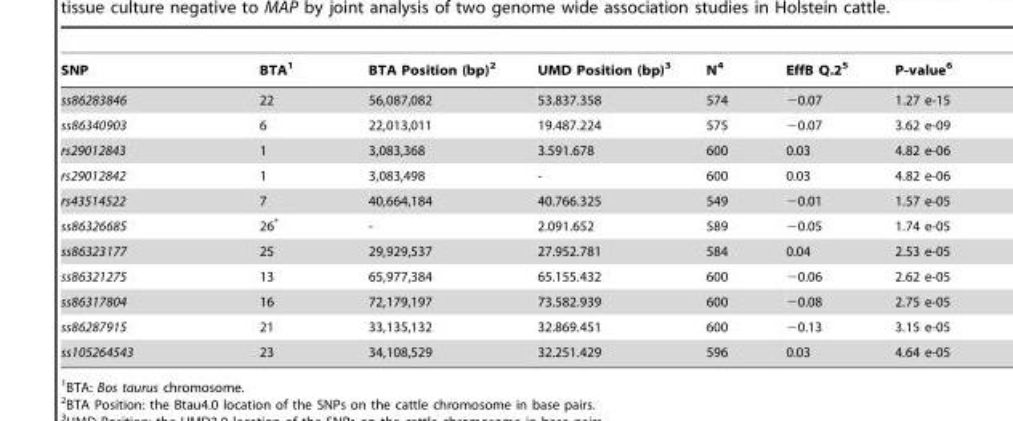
<table><thead><tr><td>SNP</td><td>BTA<sup>1</sup></td><td>BTA Position (bp)<sup>2</sup></td><td>UMD Position (bp)<sup>3</sup></td><td>N<sup>4</sup></td><td>EffB Q.2<sup>5</sup></td><td>P-value<sup>6</sup></td></tr></thead><tbody><tr><td>ss86283846</td><td>22</td><td>56,087,082</td><td>53.837.358</td><td>574</td><td>−0.07</td><td>1.27 e-15</td></tr><tr><td>ss86340903</td><td>6</td><td>22,013,011</td><td>19.487.224</td><td>575</td><td>−0.07</td><td>3.62 e-09</td></tr><tr><td>rs29012843</td><td>1</td><td>3,083,368</td><td>3.591.678</td><td>600</td><td>0.03</td><td>4.82 e-06</td></tr><tr><td>rs29012842</td><td>1</td><td>3,083,498</td><td>-</td><td>600</td><td>0.03</td><td>4.82 e-06</td></tr><tr><td>rs43514522</td><td>7</td><td>40,664,184</td><td>40.766.325</td><td>549</td><td>−0.01</td><td>1.57 e-05</td></tr><tr><td>ss86326685</td><td>26*</td><td>-</td><td>2.091.652</td><td>589</td><td>−0.05</td><td>1.74 e-05</td></tr><tr><td>ss86323177</td><td>25</td><td>29,929,537</td><td>27.952.781</td><td>584</td><td>0.04</td><td>2.53 e-05</td></tr><tr><td>ss86321275</td><td>13</td><td>65,977,384</td><td>65.155.432</td><td>600</td><td>−0.06</td><td>2.62 e-05</td></tr><tr><td>ss86317804</td><td>16</td><td>72,179,197</td><td>73.582.939</td><td>600</td><td>−0.08</td><td>2.75 e-05</td></tr><tr><td>ss86287915</td><td>21</td><td>33,135,132</td><td>32.869.451</td><td>600</td><td>−0.13</td><td>3.15 e-05</td></tr><tr><td>ss105264543</td><td>23</td><td>34,108,529</td><td>32.251.429</td><td>596</td><td>0.03</td><td>4.64 e-05</td></tr></tbody></table>